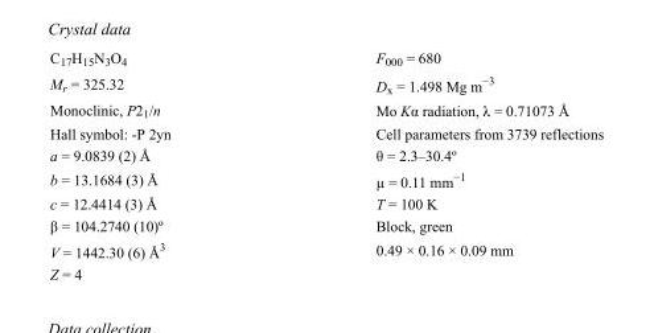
<table><tbody><tr><td>C<sub>17</sub>H<sub>15</sub>N<sub>3</sub>O<sub>4</sub></td><td>F000 = 680</td></tr><tr><td>M<sub>r</sub> = 325.32</td><td>D<sub>x</sub> = 1.498 Mg m<sup>−3</sup></td></tr><tr><td>Monoclinic, P2<sub>1</sub>/n</td><td>Mo Kα radiation, λ = 0.71073 Å</td></tr><tr><td>Hall symbol: -P 2yn</td><td>Cell parameters from 3739 reflections</td></tr><tr><td>a = 9.0839 (2) Å</td><td>θ = 2.3–30.4º</td></tr><tr><td>b = 13.1684 (3) Å</td><td>µ = 0.11 mm<sup>−1</sup></td></tr><tr><td>c = 12.4414 (3) Å</td><td>T = 100 K</td></tr><tr><td>β = 104.2740 (10)º</td><td>Block, green</td></tr><tr><td>V = 1442.30 (6) Å<sup>3</sup></td><td>0.49 × 0.16 × 0.09 mm</td></tr><tr><td>Z = 4</td><td></td></tr></tbody></table>